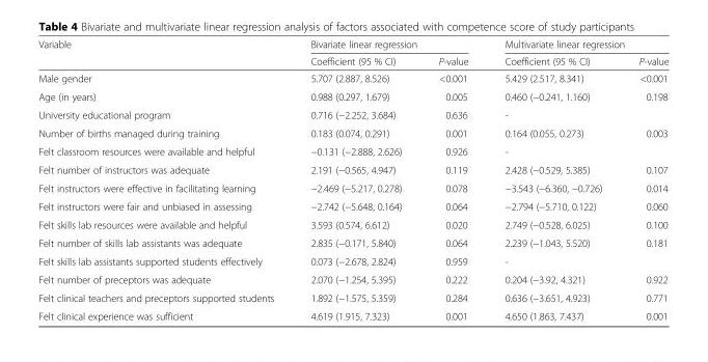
<table><thead><tr><td rowspan="2">Variable</td><td colspan="2">Bivariate linear regression</td><td colspan="2">Multivariate linear regression</td></tr><tr><td>Coefficient (95 % CI)</td><td>P-value</td><td>Coefficient (95 % CI)</td><td>P-value</td></tr></thead><tbody><tr><td>Male gender</td><td>5.707 (2.887, 8.526)</td><td>&lt;0.001</td><td>5.429 (2.517, 8.341)</td><td>&lt;0.001</td></tr><tr><td>Age (in years)</td><td>0.988 (0.297, 1.679)</td><td>0.005</td><td>0.460 (−0.241, 1.160)</td><td>0.198</td></tr><tr><td>University educational program</td><td>0.716 (−2.252, 3.684)</td><td>0.636</td><td>-</td><td></td></tr><tr><td>Number of births managed during training</td><td>0.183 (0.074, 0.291)</td><td>0.001</td><td>0.164 (0.055, 0.273)</td><td>0.003</td></tr><tr><td>Felt classroom resources were available and helpful</td><td>−0.131 (−2.888, 2.626)</td><td>0.926</td><td>-</td><td></td></tr><tr><td>Felt number of instructors was adequate</td><td>2.191 (−0.565, 4.947)</td><td>0.119</td><td>2.428 (−0.529, 5.385)</td><td>0.107</td></tr><tr><td>Felt instructors were effective in facilitating learning</td><td>−2.469 (−5.217, 0.278)</td><td>0.078</td><td>−3.543 (−6.360, −0.726)</td><td>0.014</td></tr><tr><td>Felt instructors were fair and unbiased in assessing</td><td>−2.742 (−5.648, 0.164)</td><td>0.064</td><td>−2.794 (−5.710, 0.122)</td><td>0.060</td></tr><tr><td>Felt skills lab resources were available and helpful</td><td>3.593 (0.574, 6.612)</td><td>0.020</td><td>2.749 (−0.528, 6.025)</td><td>0.100</td></tr><tr><td>Felt number of skills lab assistants was adequate</td><td>2.835 (−0.171, 5.840)</td><td>0.064</td><td>2.239 (−1.043, 5.520)</td><td>0.181</td></tr><tr><td>Felt skills lab assistants supported students effectively</td><td>0.073 (−2.678, 2.824)</td><td>0.959</td><td>-</td><td></td></tr><tr><td>Felt number of preceptors was adequate</td><td>2.070 (−1.254, 5.395)</td><td>0.222</td><td>0.204 (−3.92, 4.321)</td><td>0.922</td></tr><tr><td>Felt clinical teachers and preceptors supported students</td><td>1.892 (−1.575, 5.359)</td><td>0.284</td><td>0.636 (−3.651, 4.923)</td><td>0.771</td></tr><tr><td>Felt clinical experience was sufficient</td><td>4.619 (1.915, 7.323)</td><td>0.001</td><td>4.650 (1.863, 7.437)</td><td>0.001</td></tr></tbody></table>